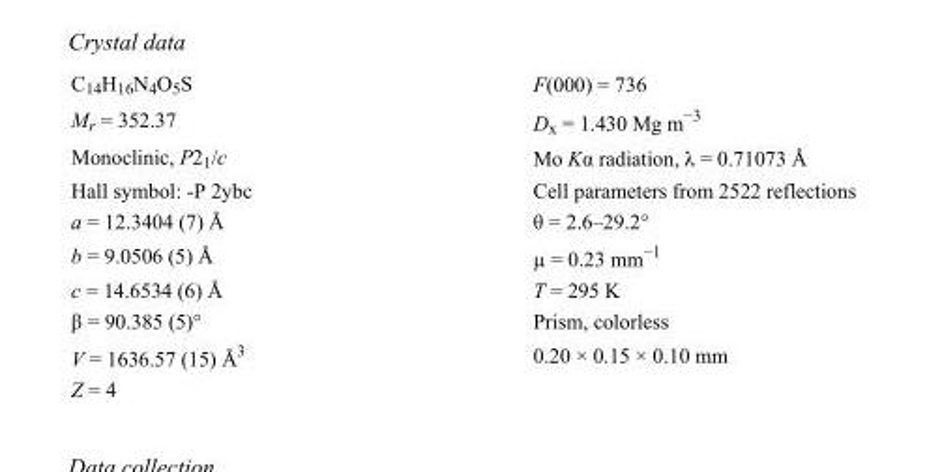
<table><tbody><tr><td>C<sub>14</sub>H<sub>16</sub>N<sub>4</sub>O<sub>5</sub>S</td><td>F(000) = 736</td></tr><tr><td>M<sub>r</sub> = 352.37</td><td>D<sub>x</sub> = 1.430 Mg m<sup>−3</sup></td></tr><tr><td>Monoclinic, P2<sub>1</sub>/c</td><td>Mo Kα radiation, λ = 0.71073 Å</td></tr><tr><td>Hall symbol: -P 2ybc</td><td>Cell parameters from 2522 reflections</td></tr><tr><td>a = 12.3404 (7) Å</td><td>θ = 2.6–29.2°</td></tr><tr><td>b = 9.0506 (5) Å</td><td>µ = 0.23 mm<sup>−1</sup></td></tr><tr><td>c = 14.6534 (6) Å</td><td>T = 295 K</td></tr><tr><td>β = 90.385 (5)°</td><td>Prism, colorless</td></tr><tr><td>V = 1636.57 (15) Å<sup>3</sup></td><td>0.20 × 0.15 × 0.10 mm</td></tr><tr><td>Z = 4</td><td></td></tr></tbody></table>